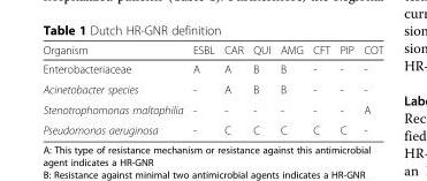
<table><thead><tr><td>Organism</td><td>ESBL</td><td>CAR</td><td>QUI</td><td>AMG</td><td>CFT</td><td>PIP</td><td>COT</td></tr></thead><tbody><tr><td>Enterobacteriaceae</td><td>A</td><td>A</td><td>B</td><td>B</td><td>-</td><td>-</td><td>-</td></tr><tr><td>Acinetobacter species</td><td>-</td><td>A</td><td>B</td><td>B</td><td>-</td><td>-</td><td>-</td></tr><tr><td>Stenotrophomonas maltophilia</td><td>-</td><td>-</td><td>-</td><td>-</td><td>-</td><td>-</td><td>A</td></tr><tr><td>Pseudomonas aeruginosa</td><td>-</td><td>C</td><td>C</td><td>C</td><td>C</td><td>C</td><td>-</td></tr></tbody></table>